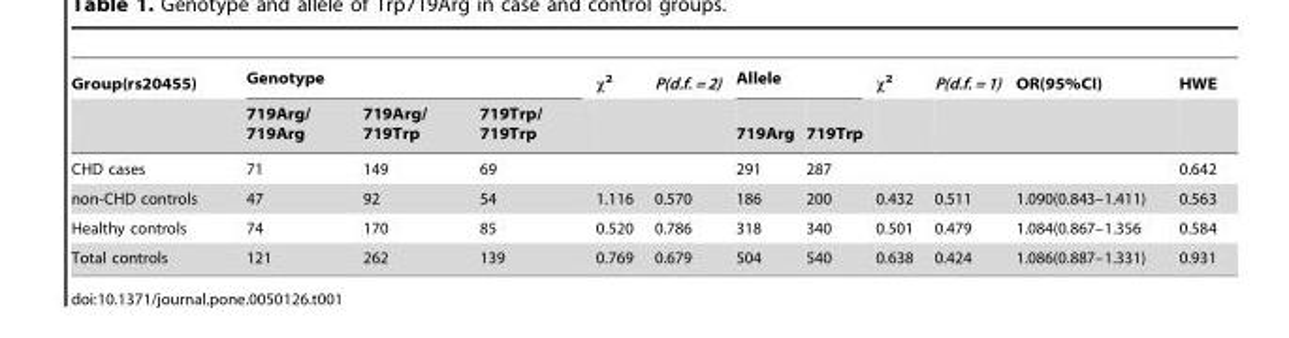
<table><thead><tr><td rowspan="2">Group(rs20455)</td><td colspan="3">Genotype</td><td rowspan="2">x2</td><td rowspan="2">P(d.f. = 2)</td><td colspan="2">Allele</td><td rowspan="2">x2</td><td rowspan="2">P(d.f. = 1)</td><td rowspan="2">OR(95%CI)</td><td rowspan="2">HWE</td></tr><tr><td>719Arg/ 719Arg</td><td>719Arg/ 719Trp</td><td>719Trp/ 719Trp</td><td>719Arg</td><td>719Trp</td></tr></thead><tbody><tr><td>CHD cases</td><td>71</td><td>149</td><td>69</td><td></td><td></td><td>291</td><td>287</td><td></td><td></td><td></td><td>0.642</td></tr><tr><td>non-CHD controls</td><td>47</td><td>92</td><td>54</td><td>1.116</td><td>0.570</td><td>186</td><td>200</td><td>0.432</td><td>0.511</td><td>1.090(0.843–1.411)</td><td>0.563</td></tr><tr><td>Healthy controls</td><td>74</td><td>170</td><td>85</td><td>0.520</td><td>0.786</td><td>318</td><td>340</td><td>0.501</td><td>0.479</td><td>1.084(0.867–1.356</td><td>0.584</td></tr><tr><td>Total controls</td><td>121</td><td>262</td><td>139</td><td>0.769</td><td>0.679</td><td>504</td><td>540</td><td>0.638</td><td>0.424</td><td>1.086(0.887–1.331)</td><td>0.931</td></tr></tbody></table>